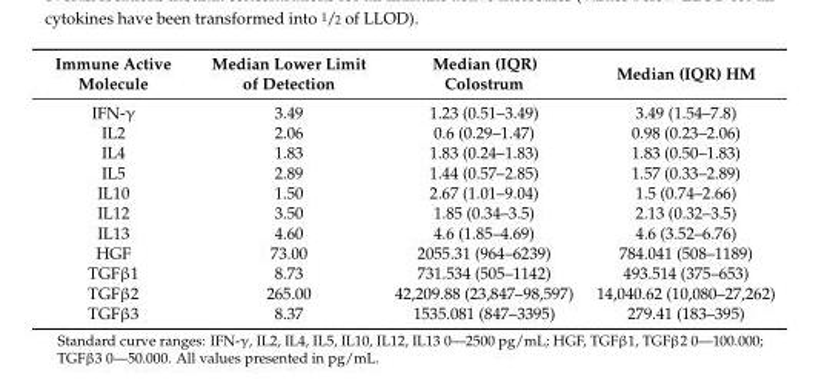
<table><thead><tr><td>Immune Active Molecule</td><td>Median Lower Limit of Detection</td><td>Median (IQR) Colostrum</td><td>Median (IQR) HM</td></tr></thead><tbody><tr><td>IFN-γ</td><td>3.49</td><td>1.23 (0.51–3.49)</td><td>3.49 (1.54–7.8)</td></tr><tr><td>IL2</td><td>2.06</td><td>0.6 (0.29–1.47)</td><td>0.98 (0.23–2.06)</td></tr><tr><td>IL4</td><td>1.83</td><td>1.83 (0.24–1.83)</td><td>1.83 (0.50–1.83)</td></tr><tr><td>IL5</td><td>2.89</td><td>1.44 (0.57–2.85)</td><td>1.57 (0.33–2.89)</td></tr><tr><td>IL10</td><td>1.50</td><td>2.67 (1.01–9.04)</td><td>1.5 (0.74–2.66)</td></tr><tr><td>IL12</td><td>3.50</td><td>1.85 (0.34–3.5)</td><td>2.13 (0.32–3.5)</td></tr><tr><td>IL13</td><td>4.60</td><td>4.6 (1.85–4.69)</td><td>4.6 (3.52–6.76)</td></tr><tr><td>HGF</td><td>73.00</td><td>2055.31 (964–6239)</td><td>784.041 (508–1189)</td></tr><tr><td>TGFβ1</td><td>8.73</td><td>731.534 (505–1142)</td><td>493.514 (375–653)</td></tr><tr><td>TGFβ2</td><td>265.00</td><td>42,209.88 (23,847–98,597)</td><td>14,040.62 (10,080–27,262)</td></tr><tr><td>TGFβ3</td><td>8.37</td><td>1535.081 (847–3395)</td><td>279.41 (183–395)</td></tr></tbody></table>